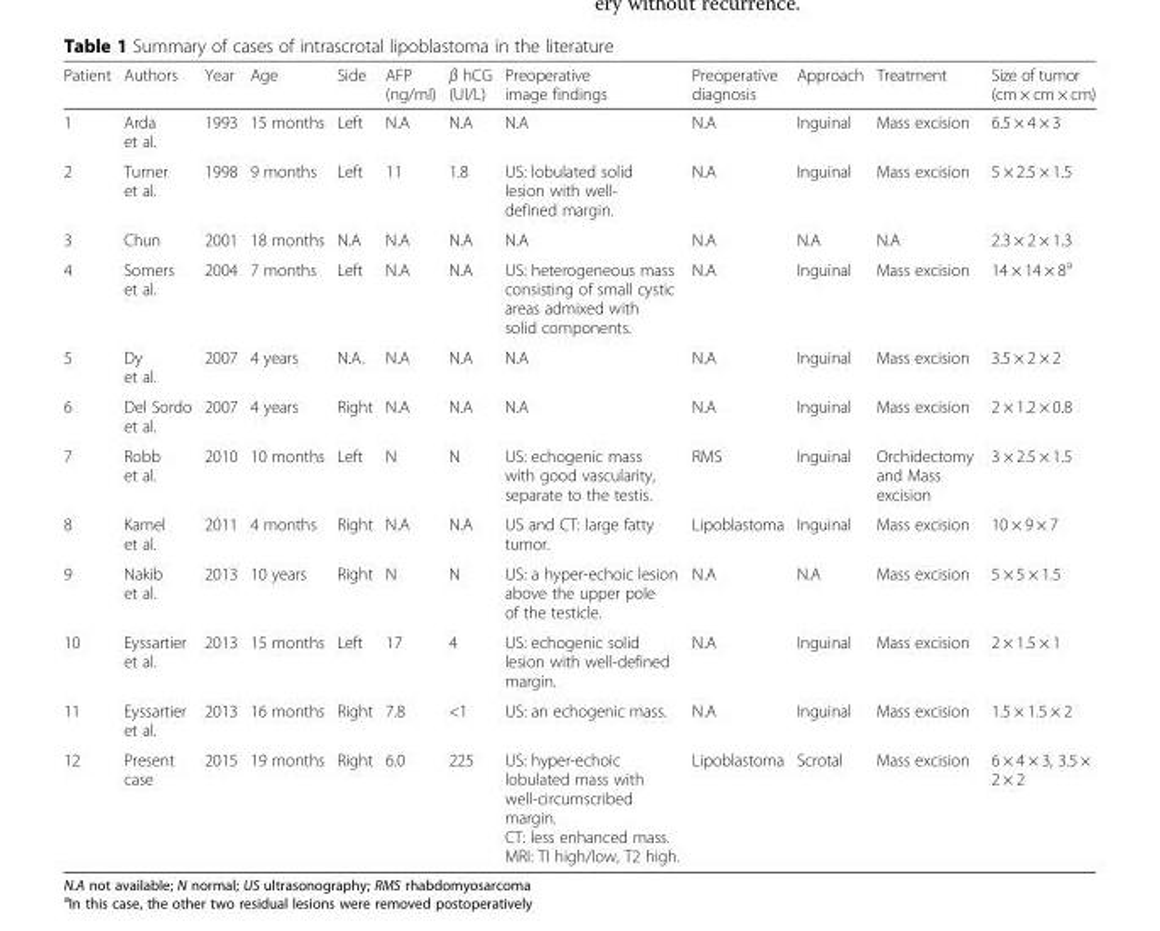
<table><thead><tr><td>Patient</td><td>Authors</td><td>Year</td><td>Age</td><td>Side</td><td>AFP (ng/ml)</td><td>β hCG (UI/L)</td><td>Preoperative image findings</td><td>Preoperative diagnosis</td><td>Approach</td><td>Treatment</td><td>Size of tumor (cm × cm × cm)</td></tr></thead><tbody><tr><td>1</td><td>Arda et al.</td><td>1993</td><td>15 months</td><td>Left</td><td>N.A</td><td>N.A</td><td>N.A</td><td>N.A</td><td>Inguinal</td><td>Mass excision</td><td>6.5 × 4 × 3</td></tr><tr><td>2</td><td>Turner et al.</td><td>1998</td><td>9 months</td><td>Left</td><td>11</td><td>1.8</td><td>US: lobulated solid lesion with well- defined margin.</td><td>N.A</td><td>Inguinal</td><td>Mass excision</td><td>5 × 2.5 × 1.5</td></tr><tr><td>3</td><td>Chun</td><td>2001</td><td>18 months</td><td>N.A</td><td>N.A</td><td>N.A</td><td>N.A</td><td>N.A</td><td>N.A</td><td>N.A</td><td>2.3 × 2 × 1.3</td></tr><tr><td>4</td><td>Somers et al.</td><td>2004</td><td>7 months</td><td>Left</td><td>N.A</td><td>N.A</td><td>US: heterogeneous mass consisting of small cystic areas admixed with solid components.</td><td>N.A</td><td>Inguinal</td><td>Mass excision</td><td>14 × 14 × 8<sup>a</sup></td></tr><tr><td>5</td><td>Dy et al.</td><td>2007</td><td>4 years</td><td>N.A.</td><td>N.A</td><td>N.A</td><td>N.A</td><td>N.A</td><td>Inguinal</td><td>Mass excision</td><td>3.5 × 2 × 2</td></tr><tr><td>6</td><td>Del Sordo et al.</td><td>2007</td><td>4 years</td><td>Right</td><td>N.A</td><td>N.A</td><td>N.A</td><td>N.A</td><td>Inguinal</td><td>Mass excision</td><td>2 × 1.2 × 0.8</td></tr><tr><td>7</td><td>Robb et al.</td><td>2010</td><td>10 months</td><td>Left</td><td>N</td><td>N</td><td>US: echogenic mass with good vascularity, separate to the testis.</td><td>RMS</td><td>Inguinal</td><td>Orchidectomy and Mass excision</td><td>3 × 2.5 × 1.5</td></tr><tr><td>8</td><td>Kamel et al.</td><td>2011</td><td>4 months</td><td>Right</td><td>N.A</td><td>N.A</td><td>US and CT: large fatty tumor.</td><td>Lipoblastoma</td><td>Inguinal</td><td>Mass excision</td><td>10 × 9 × 7</td></tr><tr><td>9</td><td>Nakib et al.</td><td>2013</td><td>10 years</td><td>Right</td><td>N</td><td>N</td><td>US: a hyper-echoic lesion above the upper pole of the testicle.</td><td>N.A</td><td>N.A</td><td>Mass excision</td><td>5 × 5 × 1.5</td></tr><tr><td>10</td><td>Eyssartier et al.</td><td>2013</td><td>15 months</td><td>Left</td><td>17</td><td>4</td><td>US: echogenic solid lesion with well-defined margin.</td><td>N.A</td><td>Inguinal</td><td>Mass excision</td><td>2 × 1.5 × 1</td></tr><tr><td>11</td><td>Eyssartier et al.</td><td>2013</td><td>16 months</td><td>Right</td><td>7.8</td><td>&lt;1</td><td>US: an echogenic mass.</td><td>N.A</td><td>Inguinal</td><td>Mass excision</td><td>1.5 × 1.5 × 2</td></tr><tr><td>12</td><td>Present case</td><td>2015</td><td>19 months</td><td>Right</td><td>6.0</td><td>225</td><td>US: hyper-echoic lobulated mass with well-circumscribed margin. CT: less enhanced mass. MRI: TI high/low, T2 high.</td><td>Lipoblastoma</td><td>Scrotal</td><td>Mass excision</td><td>6 × 4 × 3, 3.5 × 2 × 2</td></tr></tbody></table>